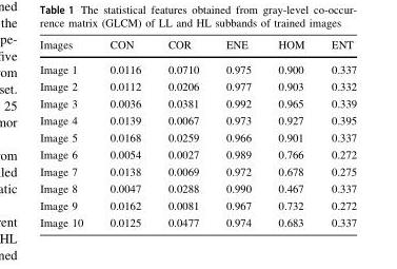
<table><thead><tr><td>Images</td><td>CON</td><td>COR</td><td>ENE</td><td>HOM</td><td>ENT</td></tr></thead><tbody><tr><td>Image 1</td><td>0.0116</td><td>0.0710</td><td>0.975</td><td>0.900</td><td>0.337</td></tr><tr><td>Image 2</td><td>0.0112</td><td>0.0206</td><td>0.977</td><td>0.903</td><td>0.332</td></tr><tr><td>Image 3</td><td>0.0036</td><td>0.0381</td><td>0.992</td><td>0.965</td><td>0.339</td></tr><tr><td>Image 4</td><td>0.0139</td><td>0.0067</td><td>0.973</td><td>0.927</td><td>0.395</td></tr><tr><td>Image 5</td><td>0.0168</td><td>0.0259</td><td>0.966</td><td>0.901</td><td>0.337</td></tr><tr><td>Image 6</td><td>0.0054</td><td>0.0027</td><td>0.989</td><td>0.766</td><td>0.272</td></tr><tr><td>Image 7</td><td>0.0138</td><td>0.0069</td><td>0.972</td><td>0.678</td><td>0.275</td></tr><tr><td>Image 8</td><td>0.0047</td><td>0.0288</td><td>0.990</td><td>0.467</td><td>0.337</td></tr><tr><td>Image 9</td><td>0.0162</td><td>0.0081</td><td>0.967</td><td>0.732</td><td>0.272</td></tr><tr><td>Image 10</td><td>0.0125</td><td>0.0477</td><td>0.974</td><td>0.683</td><td>0.337</td></tr></tbody></table>